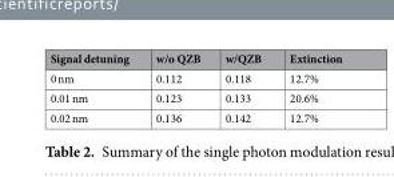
<table><thead><tr><td>Signal detuning</td><td>w/o QZB</td><td>w/QZB</td><td>Extinction</td></tr></thead><tbody><tr><td>0 nm</td><td>0.112</td><td>0.118</td><td>12.7%</td></tr><tr><td>0.01 nm</td><td>0.123</td><td>0.133</td><td>20.6%</td></tr><tr><td>0.02 nm</td><td>0.136</td><td>0.142</td><td>12.7%</td></tr></tbody></table>